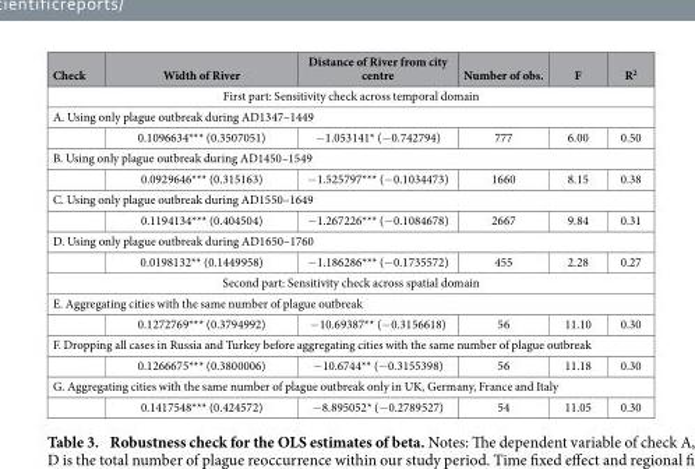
<table><thead><tr><td>Check</td><td>Width of River</td><td>Distance of River from city centre</td><td>Number of obs.</td><td>F</td><td>R<sup>2</sup></td></tr></thead><tbody><tr><td colspan="6">First part: Sensitivity check across temporal domain</td></tr><tr><td colspan="6">A. Using only plague outbreak during AD1347–1449</td></tr><tr><td></td><td>0.1096634*** (0.3507051)</td><td>− 1.053141* (−0.742794)</td><td>777</td><td>6.00</td><td>0.50</td></tr><tr><td colspan="6">B. Using only plague outbreak during AD1450–1549</td></tr><tr><td></td><td>0.0929646*** (0.315163)</td><td>− 1.525797*** (−0.1034473)</td><td>1660</td><td>8.15</td><td>0.38</td></tr><tr><td colspan="6">C. Using only plague outbreak during AD1550–1649</td></tr><tr><td></td><td>0.1194134*** (0.404504)</td><td>− 1.267226*** (−0.1084678)</td><td>2667</td><td>9.84</td><td>0.31</td></tr><tr><td colspan="6">D. Using only plague outbreak during AD1650–1760</td></tr><tr><td></td><td>0.0198132** (0.1449958)</td><td>− 1.186286*** (−0.1735572)</td><td>455</td><td>2.28</td><td>0.27</td></tr><tr><td colspan="6">Second part: Sensitivity check across spatial domain</td></tr><tr><td colspan="6">E. Aggregating cities with the same number of plague outbreak</td></tr><tr><td></td><td>0.1272769*** (0.3794992)</td><td>− 10.69387** (−0.3156618)</td><td>56</td><td>11.10</td><td>0.30</td></tr><tr><td colspan="6">F. Dropping all cases in Russia and Turkey before aggregating cities with the same number of plague outbreak</td></tr><tr><td></td><td>0.1266675*** (0.3800006)</td><td>− 10.6744** (−0.3155398)</td><td>56</td><td>11.18</td><td>0.30</td></tr><tr><td colspan="6">G. Aggregating cities with the same number of plague outbreak only in UK, Germany, France and Italy</td></tr><tr><td></td><td>0.1417548*** (0.424572)</td><td>− 8.895052* (−0.2789527)</td><td>54</td><td>11.05</td><td>0.30</td></tr></tbody></table>